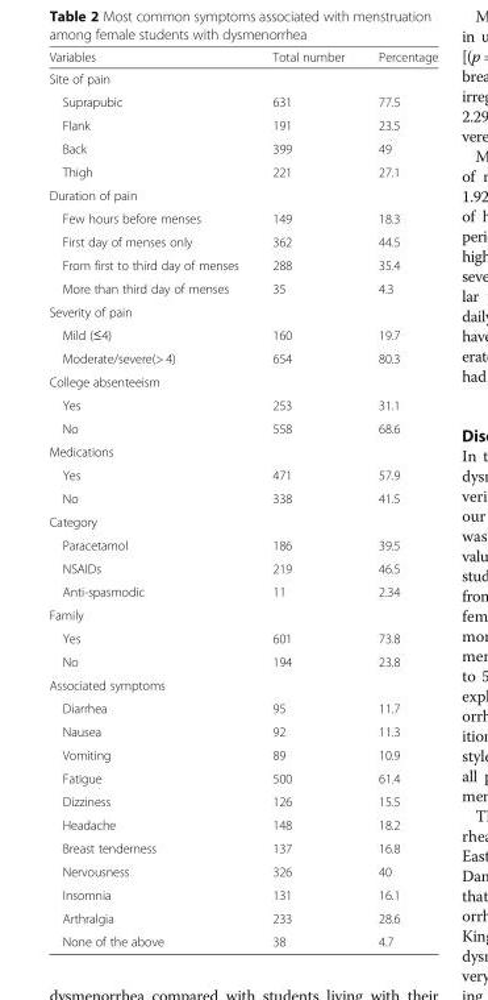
<table><thead><tr><td>Variables</td><td>Total number</td><td>Percentage</td></tr></thead><tbody><tr><td colspan="3">Site of pain</td></tr><tr><td>Suprapubic</td><td>631</td><td>77.5</td></tr><tr><td>Flank</td><td>191</td><td>23.5</td></tr><tr><td>Back</td><td>399</td><td>49</td></tr><tr><td>Thigh</td><td>221</td><td>27.1</td></tr><tr><td colspan="3">Duration of pain</td></tr><tr><td>Few hours before menses</td><td>149</td><td>18.3</td></tr><tr><td>First day of menses only</td><td>362</td><td>44.5</td></tr><tr><td>From first to third day of menses</td><td>288</td><td>35.4</td></tr><tr><td>More than third day of menses</td><td>35</td><td>4.3</td></tr><tr><td colspan="3">Severity of pain</td></tr><tr><td>Mild (≤4)</td><td>160</td><td>19.7</td></tr><tr><td>Moderate/severe(&gt; 4)</td><td>654</td><td>80.3</td></tr><tr><td colspan="3">College absenteeism</td></tr><tr><td>Yes</td><td>253</td><td>31.1</td></tr><tr><td>No</td><td>558</td><td>68.6</td></tr><tr><td colspan="3">Medications</td></tr><tr><td>Yes</td><td>471</td><td>57.9</td></tr><tr><td>No</td><td>338</td><td>41.5</td></tr><tr><td colspan="3">Category</td></tr><tr><td>Paracetamol</td><td>186</td><td>39.5</td></tr><tr><td>NSAIDs</td><td>219</td><td>46.5</td></tr><tr><td>Anti-spasmodic</td><td>11</td><td>2.34</td></tr><tr><td colspan="3">Family</td></tr><tr><td>Yes</td><td>601</td><td>73.8</td></tr><tr><td>No</td><td>194</td><td>23.8</td></tr><tr><td colspan="3">Associated symptoms</td></tr><tr><td>Diarrhea</td><td>95</td><td>11.7</td></tr><tr><td>Nausea</td><td>92</td><td>11.3</td></tr><tr><td>Vomiting</td><td>89</td><td>10.9</td></tr><tr><td>Fatigue</td><td>500</td><td>61.4</td></tr><tr><td>Dizziness</td><td>126</td><td>15.5</td></tr><tr><td>Headache</td><td>148</td><td>18.2</td></tr><tr><td>Breast tenderness</td><td>137</td><td>16.8</td></tr><tr><td>Nervousness</td><td>326</td><td>40</td></tr><tr><td>Insomnia</td><td>131</td><td>16.1</td></tr><tr><td>Arthralgia</td><td>233</td><td>28.6</td></tr><tr><td>None of the above</td><td>38</td><td>4.7</td></tr></tbody></table>